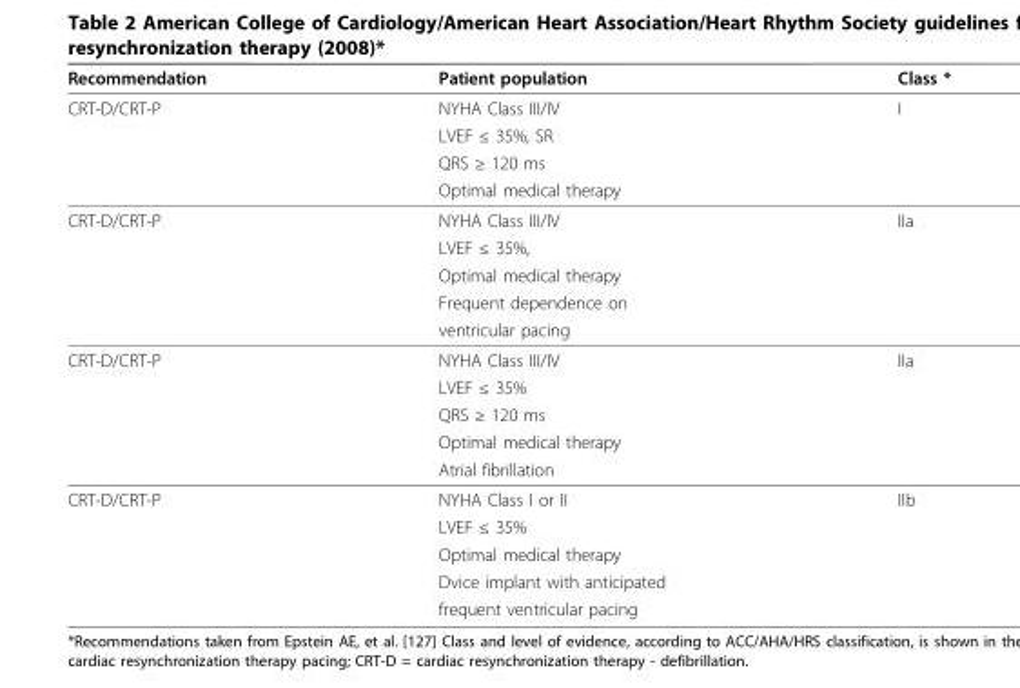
<table><thead><tr><td>Recommendation</td><td>Patient population</td><td>Class *</td></tr></thead><tbody><tr><td rowspan="4">CRT-D/CRT-P</td><td>NYHA Class III/IV</td><td>I</td></tr><tr><td>LVEF ≤ 35%, SR</td><td></td></tr><tr><td>QRS ≥ 120 ms</td><td></td></tr><tr><td>Optimal medical therapy</td><td></td></tr><tr><td rowspan="5">CRT-D/CRT-P</td><td>NYHA Class III/IV</td><td>IIa</td></tr><tr><td>LVEF ≤ 35%,</td><td></td></tr><tr><td>Optimal medical therapy</td><td></td></tr><tr><td>Frequent dependence on</td><td></td></tr><tr><td>ventricular pacing</td><td></td></tr><tr><td rowspan="5">CRT-D/CRT-P</td><td>NYHA Class III/IV</td><td>IIa</td></tr><tr><td>LVEF ≤ 35%</td><td></td></tr><tr><td>QRS ≥ 120 ms</td><td></td></tr><tr><td>Optimal medical therapy</td><td></td></tr><tr><td>Atrial fibrillation</td><td></td></tr><tr><td rowspan="5">CRT-D/CRT-P</td><td>NYHA Class I or II</td><td>IIb</td></tr><tr><td>LVEF ≤ 35%</td><td></td></tr><tr><td>Optimal medical therapy</td><td></td></tr><tr><td>Dvice implant with anticipated</td><td></td></tr><tr><td>frequent ventricular pacing</td><td></td></tr></tbody></table>